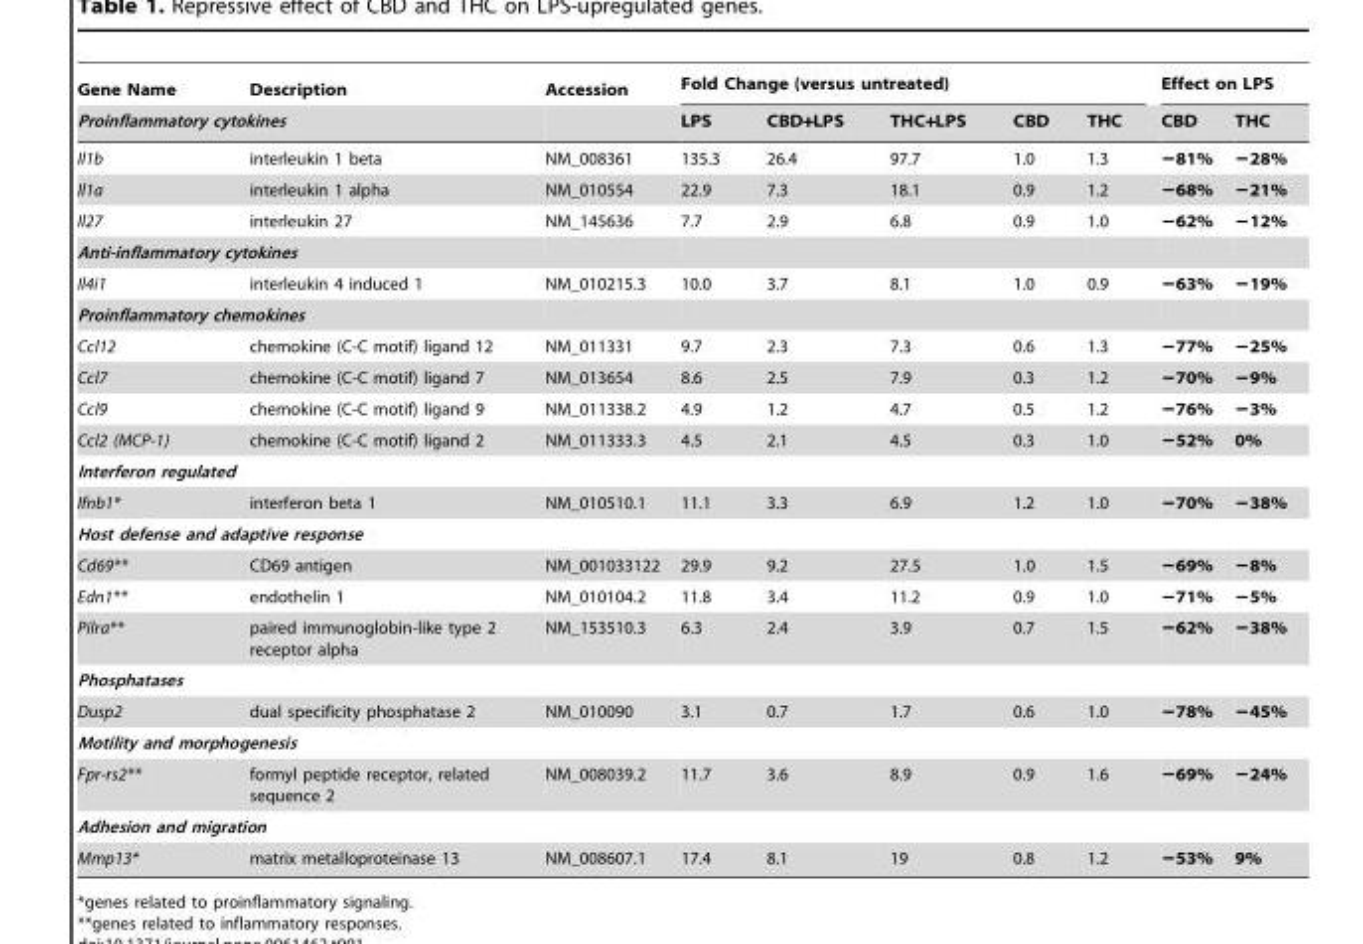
<table><thead><tr><td>Gene Name</td><td>Description</td><td rowspan="2">Accession</td><td colspan="5">Fold Change (versus untreated)</td><td colspan="2">Effect on LPS</td></tr><tr><td colspan="2">Proinflammatory cytokines</td><td>LPS</td><td>CBD+LPS</td><td>THC+LPS</td><td>CBD</td><td>THC</td><td>CBD</td><td>THC</td></tr></thead><tbody><tr><td>Il1b</td><td>interleukin 1 beta</td><td>NM_008361</td><td>135.3</td><td>26.4</td><td>97.7</td><td>1.0</td><td>1.3</td><td>−81%</td><td>−28%</td></tr><tr><td>Il1a</td><td>interleukin 1 alpha</td><td>NM_010554</td><td>22.9</td><td>7.3</td><td>18.1</td><td>0.9</td><td>1.2</td><td>−68%</td><td>−21%</td></tr><tr><td>Il27</td><td>interleukin 27</td><td>NM_145636</td><td>7.7</td><td>2.9</td><td>6.8</td><td>0.9</td><td>1.0</td><td>−62%</td><td>−12%</td></tr><tr><td colspan="10">Anti-inflammatory cytokines</td></tr><tr><td>Il4i1</td><td>interleukin 4 induced 1</td><td>NM_010215.3</td><td>10.0</td><td>3.7</td><td>8.1</td><td>1.0</td><td>0.9</td><td>−63%</td><td>−19%</td></tr><tr><td colspan="10">Proinflammatory chemokines</td></tr><tr><td>Ccl12</td><td>chemokine (C-C motif) ligand 12</td><td>NM_011331</td><td>9.7</td><td>2.3</td><td>7.3</td><td>0.6</td><td>1.3</td><td>−77%</td><td>−25%</td></tr><tr><td>Ccl7</td><td>chemokine (C-C motif) ligand 7</td><td>NM_013654</td><td>8.6</td><td>2.5</td><td>7.9</td><td>0.3</td><td>1.2</td><td>−70%</td><td>−9%</td></tr><tr><td>Ccl9</td><td>chemokine (C-C motif) ligand 9</td><td>NM_011338.2</td><td>4.9</td><td>1.2</td><td>4.7</td><td>0.5</td><td>1.2</td><td>−76%</td><td>−3%</td></tr><tr><td>Ccl2 (MCP-1)</td><td>chemokine (C-C motif) ligand 2</td><td>NM_011333.3</td><td>4.5</td><td>2.1</td><td>4.5</td><td>0.3</td><td>1.0</td><td>−52%</td><td>0%</td></tr><tr><td colspan="10">Interferon regulated</td></tr><tr><td>Ifnb1*</td><td>interferon beta 1</td><td>NM_010510.1</td><td>11.1</td><td>3.3</td><td>6.9</td><td>1.2</td><td>1.0</td><td>−70%</td><td>−38%</td></tr><tr><td colspan="10">Host defense and adaptive response</td></tr><tr><td>Cd69**</td><td>CD69 antigen</td><td>NM_001033122</td><td>29.9</td><td>9.2</td><td>27.5</td><td>1.0</td><td>1.5</td><td>−69%</td><td>−8%</td></tr><tr><td>Edn1**</td><td>endothelin 1</td><td>NM_010104.2</td><td>11.8</td><td>3.4</td><td>11.2</td><td>0.9</td><td>1.0</td><td>−71%</td><td>−5%</td></tr><tr><td>Pilra**</td><td>paired immunoglobin-like type 2 receptor alpha</td><td>NM_153510.3</td><td>6.3</td><td>2.4</td><td>3.9</td><td>0.7</td><td>1.5</td><td>−62%</td><td>−38%</td></tr><tr><td colspan="10">Phosphatases</td></tr><tr><td>Dusp2</td><td>dual specificity phosphatase 2</td><td>NM_010090</td><td>3.1</td><td>0.7</td><td>1.7</td><td>0.6</td><td>1.0</td><td>−78%</td><td>−45%</td></tr><tr><td colspan="10">Motility and morphogenesis</td></tr><tr><td>Fpr-rs2**</td><td>formyl peptide receptor, related sequence 2</td><td>NM_008039.2</td><td>11.7</td><td>3.6</td><td>8.9</td><td>0.9</td><td>1.6</td><td>−69%</td><td>−24%</td></tr><tr><td colspan="10">Adhesion and migration</td></tr><tr><td>Mmp13*</td><td>matrix metalloproteinase 13</td><td>NM_008607.1</td><td>17.4</td><td>8.1</td><td>19</td><td>0.8</td><td>1.2</td><td>−53%</td><td>9%</td></tr></tbody></table>